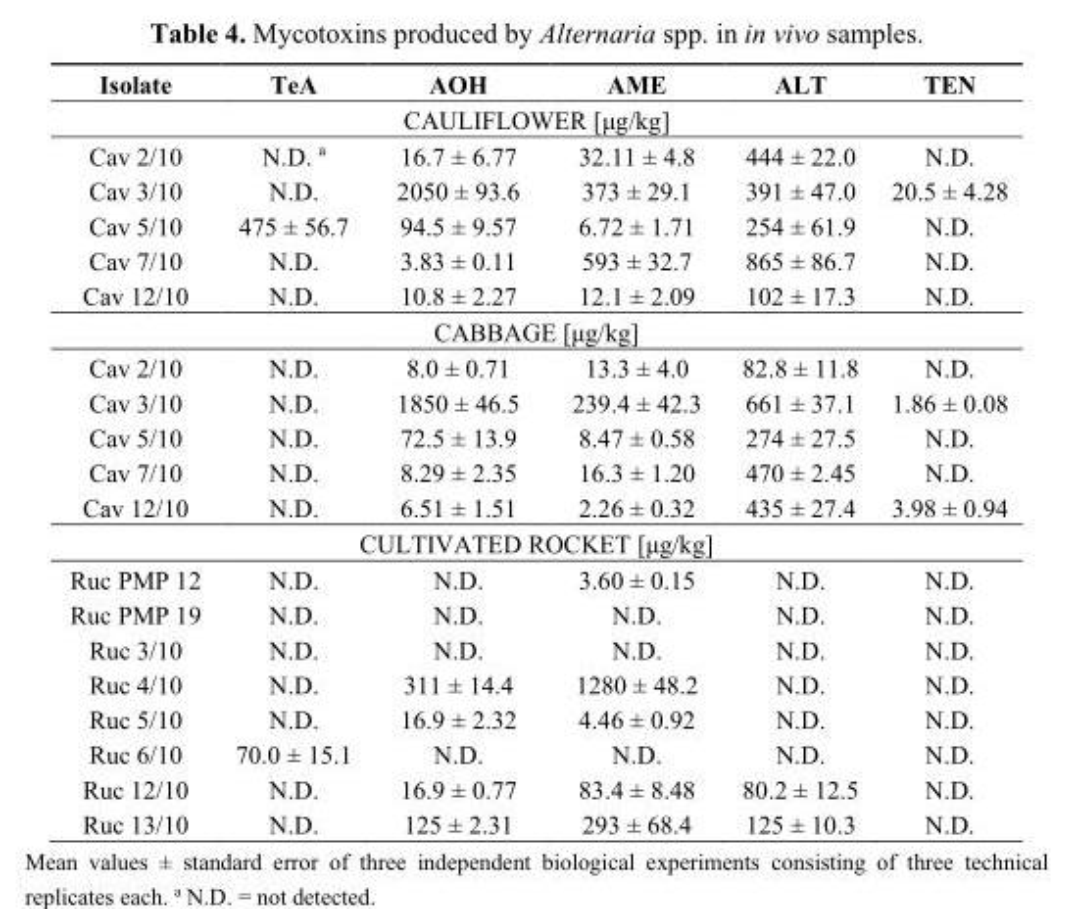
<table><thead><tr><td>Isolate</td><td>TeA</td><td>AOH</td><td>AME</td><td>ALT</td><td>TEN</td></tr></thead><tbody><tr><td colspan="6">CAULIFLOWER [μg/kg]</td></tr><tr><td>Cav 2/10</td><td>N.D. <sup>a</sup></td><td>16.7 ± 6.77</td><td>32.11 ± 4.8</td><td>444 ± 22.0</td><td>N.D.</td></tr><tr><td>Cav 3/10</td><td>N.D.</td><td>2050 ± 93.6</td><td>373 ± 29.1</td><td>391 ± 47.0</td><td>20.5 ± 4.28</td></tr><tr><td>Cav 5/10</td><td>475 ± 56.7</td><td>94.5 ± 9.57</td><td>6.72 ± 1.71</td><td>254 ± 61.9</td><td>N.D.</td></tr><tr><td>Cav 7/10</td><td>N.D.</td><td>3.83 ± 0.11</td><td>593 ± 32.7</td><td>865 ± 86.7</td><td>N.D.</td></tr><tr><td>Cav 12/10</td><td>N.D.</td><td>10.8 ± 2.27</td><td>12.1 ± 2.09</td><td>102 ± 17.3</td><td>N.D.</td></tr><tr><td colspan="6">CABBAGE [μg/kg]</td></tr><tr><td>Cav 2/10</td><td>N.D.</td><td>8.0 ± 0.71</td><td>13.3 ± 4.0</td><td>82.8 ± 11.8</td><td>N.D.</td></tr><tr><td>Cav 3/10</td><td>N.D.</td><td>1850 ± 46.5</td><td>239.4 ± 42.3</td><td>661 ± 37.1</td><td>1.86 ± 0.08</td></tr><tr><td>Cav 5/10</td><td>N.D.</td><td>72.5 ± 13.9</td><td>8.47 ± 0.58</td><td>274 ± 27.5</td><td>N.D.</td></tr><tr><td>Cav 7/10</td><td>N.D.</td><td>8.29 ± 2.35</td><td>16.3 ± 1.20</td><td>470 ± 2.45</td><td>N.D.</td></tr><tr><td>Cav 12/10</td><td>N.D.</td><td>6.51 ± 1.51</td><td>2.26 ± 0.32</td><td>435 ± 27.4</td><td>3.98 ± 0.94</td></tr><tr><td colspan="6">CULTIVATED ROCKET [μg/kg]</td></tr><tr><td>Ruc PMP 12</td><td>N.D.</td><td>N.D.</td><td>3.60 ± 0.15</td><td>N.D.</td><td>N.D.</td></tr><tr><td>Ruc PMP 19</td><td>N.D.</td><td>N.D.</td><td>N.D.</td><td>N.D.</td><td>N.D.</td></tr><tr><td>Ruc 3/10</td><td>N.D.</td><td>N.D.</td><td>N.D.</td><td>N.D.</td><td>N.D.</td></tr><tr><td>Ruc 4/10</td><td>N.D.</td><td>311 ± 14.4</td><td>1280 ± 48.2</td><td>N.D.</td><td>N.D.</td></tr><tr><td>Ruc 5/10</td><td>N.D.</td><td>16.9 ± 2.32</td><td>4.46 ± 0.92</td><td>N.D.</td><td>N.D.</td></tr><tr><td>Ruc 6/10</td><td>70.0 ± 15.1</td><td>N.D.</td><td>N.D.</td><td>N.D.</td><td>N.D.</td></tr><tr><td>Ruc 12/10</td><td>N.D.</td><td>16.9 ± 0.77</td><td>83.4 ± 8.48</td><td>80.2 ± 12.5</td><td>N.D.</td></tr><tr><td>Ruc 13/10</td><td>N.D.</td><td>125 ± 2.31</td><td>293 ± 68.4</td><td>125 ± 10.3</td><td>N.D.</td></tr></tbody></table>